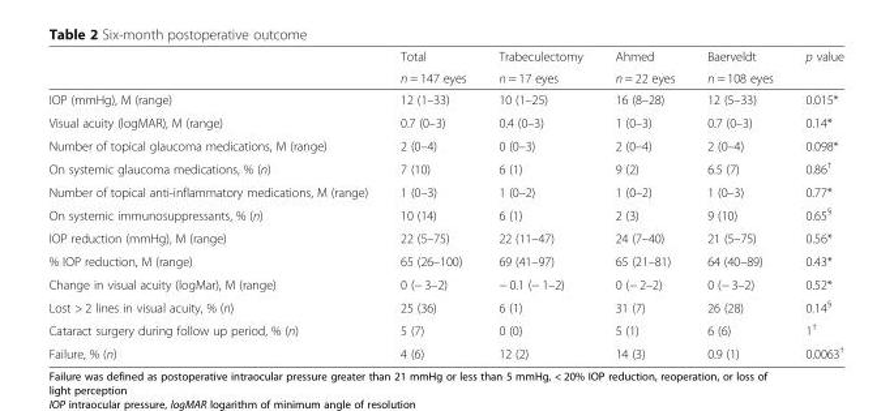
<table><thead><tr><td rowspan="2"></td><td rowspan="2">Total n = 147 eyes</td><td rowspan="2">Trabeculectomy n = 17 eyes</td><td rowspan="2">Ahmed n = 22 eyes</td><td rowspan="2">Baerveldt n = 108 eyes</td><td rowspan="2">p value</td></tr><tr></tr></thead><tbody><tr><td>IOP (mmHg), M (range)</td><td>12 (1–33)</td><td>10 (1–25)</td><td>16 (8–28)</td><td>12 (5–33)</td><td>0.015*</td></tr><tr><td>Visual acuity (logMAR), M (range)</td><td>0.7 (0–3)</td><td>0.4 (0–3)</td><td>1 (0–3)</td><td>0.7 (0–3)</td><td>0.14*</td></tr><tr><td>Number of topical glaucoma medications, M (range)</td><td>2 (0–4)</td><td>0 (0–3)</td><td>2 (0–4)</td><td>2 (0–4)</td><td>0.098*</td></tr><tr><td>On systemic glaucoma medications, % (n)</td><td>7 (10)</td><td>6 (1)</td><td>9 (2)</td><td>6.5 (7)</td><td>0.86<sup>†</sup></td></tr><tr><td>Number of topical anti-inflammatory medications, M (range)</td><td>1 (0–3)</td><td>1 (0–2)</td><td>1 (0–2)</td><td>1 (0–3)</td><td>0.77*</td></tr><tr><td>On systemic immunosuppressants, % (n)</td><td>10 (14)</td><td>6 (1)</td><td>2 (3)</td><td>9 (10)</td><td>0.65<sup>§</sup></td></tr><tr><td>IOP reduction (mmHg), M (range)</td><td>22 (5–75)</td><td>22 (11–47)</td><td>24 (7–40)</td><td>21 (5–75)</td><td>0.56*</td></tr><tr><td>% IOP reduction, M (range)</td><td>65 (26–100)</td><td>69 (41–97)</td><td>65 (21–81)</td><td>64 (40–89)</td><td>0.43*</td></tr><tr><td>Change in visual acuity (logMar), M (range)</td><td>0 (− 3–2)</td><td>− 0.1 (− 1–2)</td><td>0 (− 2–2)</td><td>0 (− 3–2)</td><td>0.52*</td></tr><tr><td>Lost &gt; 2 lines in visual acuity, % (n)</td><td>25 (36)</td><td>6 (1)</td><td>31 (7)</td><td>26 (28)</td><td>0.14<sup>§</sup></td></tr><tr><td>Cataract surgery during follow up period, % (n)</td><td>5 (7)</td><td>0 (0)</td><td>5 (1)</td><td>6 (6)</td><td>1<sup>†</sup></td></tr><tr><td>Failure, % (n)</td><td>4 (6)</td><td>12 (2)</td><td>14 (3)</td><td>0.9 (1)</td><td>0.0063<sup>†</sup></td></tr></tbody></table>